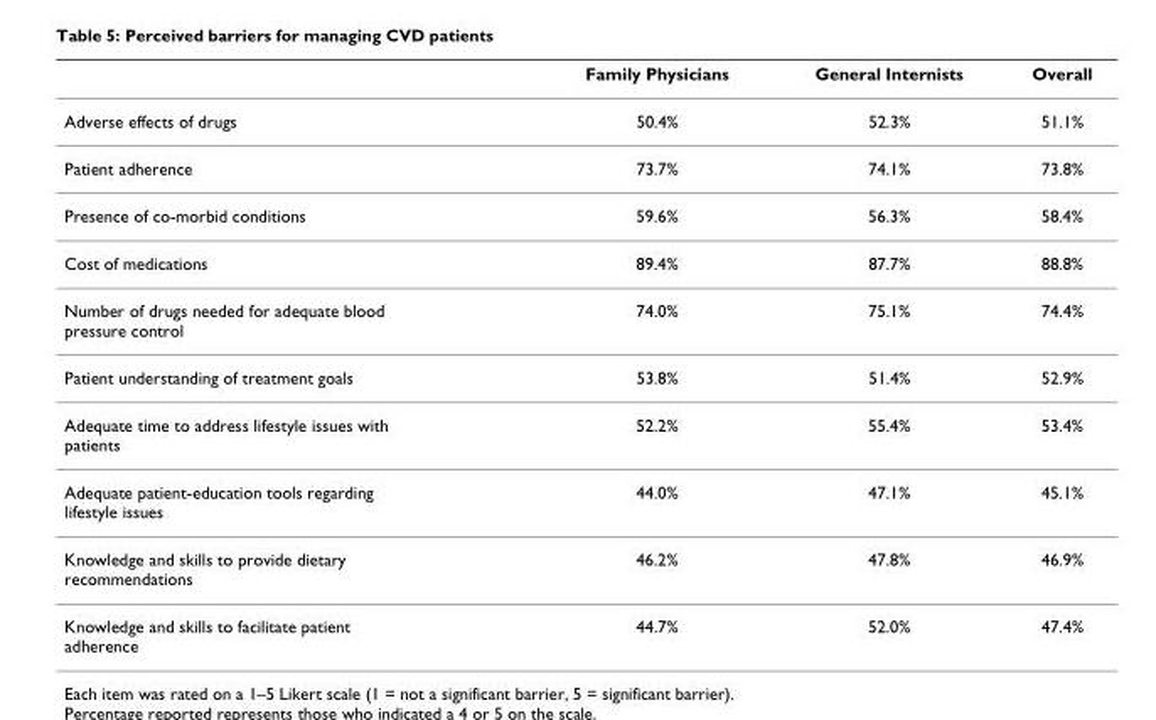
<table><thead><tr><td></td><td>Family Physicians</td><td>General Internists</td><td>Overall</td></tr></thead><tbody><tr><td>Adverse effects of drugs</td><td>50.4%</td><td>52.3%</td><td>51.1%</td></tr><tr><td>Patient adherence</td><td>73.7%</td><td>74.1%</td><td>73.8%</td></tr><tr><td>Presence of co-morbid conditions</td><td>59.6%</td><td>56.3%</td><td>58.4%</td></tr><tr><td>Cost of medications</td><td>89.4%</td><td>87.7%</td><td>88.8%</td></tr><tr><td>Number of drugs needed for adequate blood pressure control</td><td>74.0%</td><td>75.1%</td><td>74.4%</td></tr><tr><td>Patient understanding of treatment goals</td><td>53.8%</td><td>51.4%</td><td>52.9%</td></tr><tr><td>Adequate time to address lifestyle issues with patients</td><td>52.2%</td><td>55.4%</td><td>53.4%</td></tr><tr><td>Adequate patient-education tools regarding lifestyle issues</td><td>44.0%</td><td>47.1%</td><td>45.1%</td></tr><tr><td>Knowledge and skills to provide dietary recommendations</td><td>46.2%</td><td>47.8%</td><td>46.9%</td></tr><tr><td>Knowledge and skills to facilitate patient adherence</td><td>44.7%</td><td>52.0%</td><td>47.4%</td></tr></tbody></table>